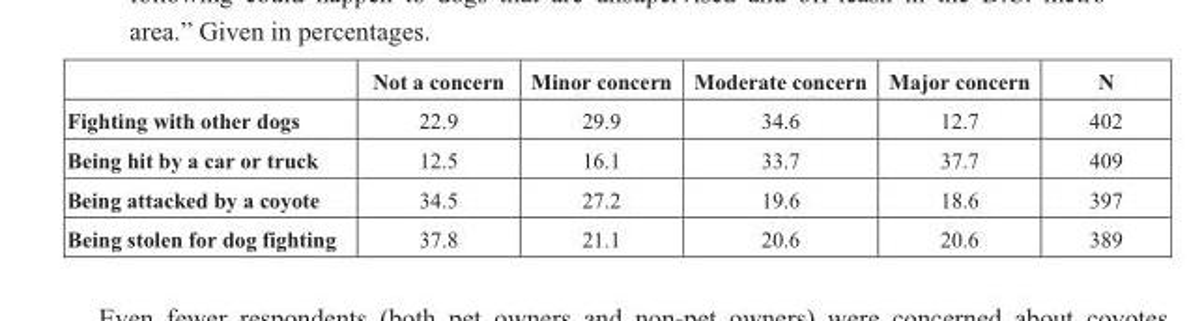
<table><thead><tr><td></td><td>Not a concern</td><td>Minor concern</td><td>Moderate concern</td><td>Major concern</td><td>N</td></tr></thead><tbody><tr><td>Fighting with other dogs</td><td>22.9</td><td>29.9</td><td>34.6</td><td>12.7</td><td>402</td></tr><tr><td>Being hit by a car or truck</td><td>12.5</td><td>16.1</td><td>33.7</td><td>37.7</td><td>409</td></tr><tr><td>Being attacked by a coyote</td><td>34.5</td><td>27.2</td><td>19.6</td><td>18.6</td><td>397</td></tr><tr><td>Being stolen for dog fighting</td><td>37.8</td><td>21.1</td><td>20.6</td><td>20.6</td><td>389</td></tr></tbody></table>